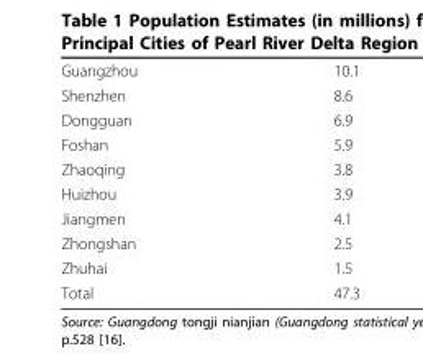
<table><tbody><tr><td>Guangzhou</td><td>10.1</td></tr><tr><td>Shenzhen</td><td>8.6</td></tr><tr><td>Dongguan</td><td>6.9</td></tr><tr><td>Foshan</td><td>5.9</td></tr><tr><td>Zhaoqing</td><td>3.8</td></tr><tr><td>Huizhou</td><td>3.9</td></tr><tr><td>Jiangmen</td><td>4.1</td></tr><tr><td>Zhongshan</td><td>2.5</td></tr><tr><td>Zhuhai</td><td>1.5</td></tr><tr><td>Total</td><td>47.3</td></tr></tbody></table>